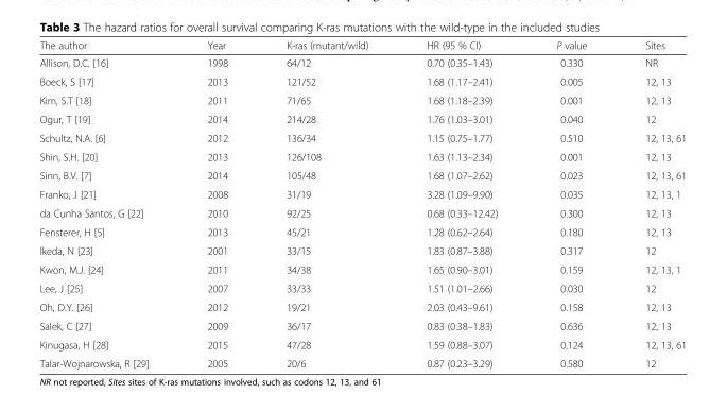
<table><thead><tr><td>The author</td><td>Year</td><td>K-ras (mutant/wild)</td><td>HR (95 % CI)</td><td>P value</td><td>Sites</td></tr></thead><tbody><tr><td>Allison, D.C. [16]</td><td>1998</td><td>64/12</td><td>0.70 (0.35–1.43)</td><td>0.330</td><td>NR</td></tr><tr><td>Boeck, S [17]</td><td>2013</td><td>121/52</td><td>1.68 (1.17–2.41)</td><td>0.005</td><td>12, 13</td></tr><tr><td>Kim, S.T [18]</td><td>2011</td><td>71/65</td><td>1.68 (1.18–2.39)</td><td>0.001</td><td>12, 13</td></tr><tr><td>Ogur, T [19]</td><td>2014</td><td>214/28</td><td>1.76 (1.03–3.01)</td><td>0.040</td><td>12</td></tr><tr><td>Schultz, N.A. [6]</td><td>2012</td><td>136/34</td><td>1.15 (0.75–1.77)</td><td>0.510</td><td>12, 13, 61</td></tr><tr><td>Shin, S.H. [20]</td><td>2013</td><td>126/108</td><td>1.63 (1.13–2.34)</td><td>0.001</td><td>12, 13</td></tr><tr><td>Sinn, B.V. [7]</td><td>2014</td><td>105/48</td><td>1.68 (1.07–2.62)</td><td>0.023</td><td>12, 13, 61</td></tr><tr><td>Franko, J [21]</td><td>2008</td><td>31/19</td><td>3.28 (1.09–9.90)</td><td>0.035</td><td>12, 13, 1</td></tr><tr><td>da Cunha Santos, G [22]</td><td>2010</td><td>92/25</td><td>0.68 (0.33–12.42)</td><td>0.300</td><td>12, 13</td></tr><tr><td>Fensterer, H [5]</td><td>2013</td><td>45/21</td><td>1.28 (0.62–2.64)</td><td>0.180</td><td>12, 13</td></tr><tr><td>lkeda, N [23]</td><td>2001</td><td>33/15</td><td>1.83 (0.87–3.88)</td><td>0.317</td><td>12</td></tr><tr><td>Kwon, M.J. [24]</td><td>2011</td><td>34/38</td><td>1.65 (0.90–3.01)</td><td>0.159</td><td>12, 13, 1</td></tr><tr><td>Lee, J [25]</td><td>2007</td><td>33/33</td><td>1.51 (1.01–2.66)</td><td>0.030</td><td>12</td></tr><tr><td>Oh, D.Y. [26]</td><td>2012</td><td>19/21</td><td>2.03 (0.43–9.61)</td><td>0.158</td><td>12, 13</td></tr><tr><td>Salek, C [27]</td><td>2009</td><td>36/17</td><td>0.83 (0.38–1.83)</td><td>0.636</td><td>12, 13</td></tr><tr><td>Kinugasa, H [28]</td><td>2015</td><td>47/28</td><td>1.59 (0.88–3.07)</td><td>0.124</td><td>12, 13, 61</td></tr><tr><td>Talar-Wojnarowska, R [29]</td><td>2005</td><td>20/6</td><td>0.87 (0.23–3.29)</td><td>0.580</td><td>12</td></tr></tbody></table>